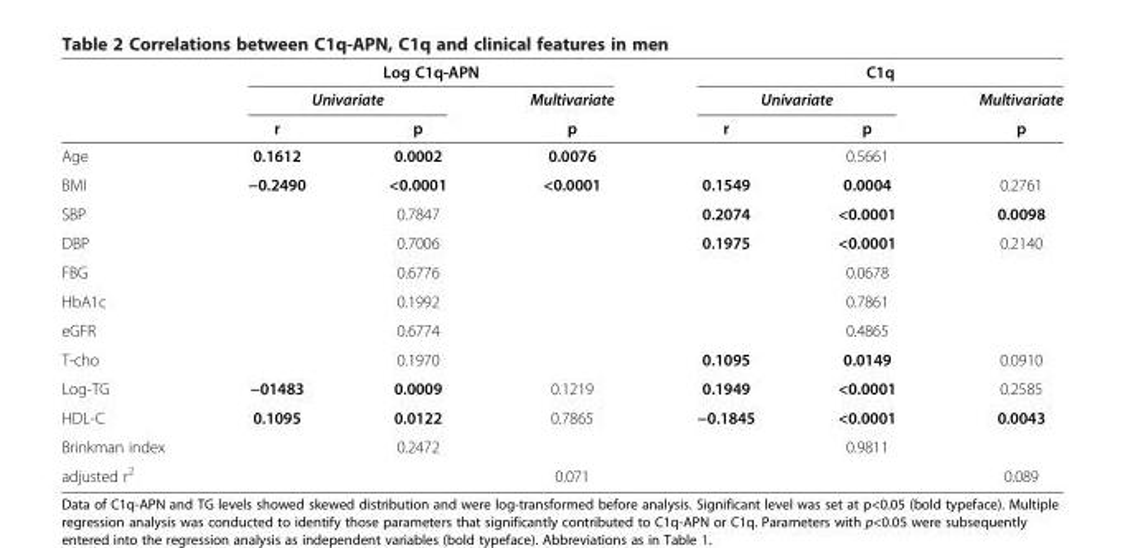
<table><thead><tr><td rowspan="3"></td><td colspan="3">Log C1q-APN</td><td colspan="3">C1q</td></tr><tr><td colspan="2">Univariate</td><td rowspan="2">Multivariate p</td><td colspan="2">Univariate</td><td rowspan="2">Multivariate p</td></tr><tr><td>r</td><td>p</td><td>r</td><td>p</td></tr></thead><tbody><tr><td>Age</td><td>0.1612</td><td>0.0002</td><td>0.0076</td><td></td><td>0.5661</td><td></td></tr><tr><td>BMI</td><td>−0.2490</td><td>&lt;0.0001</td><td>&lt;0.0001</td><td>0.1549</td><td>0.0004</td><td>0.2761</td></tr><tr><td>SBP</td><td></td><td>0.7847</td><td></td><td>0.2074</td><td>&lt;0.0001</td><td>0.0098</td></tr><tr><td>DBP</td><td></td><td>0.7006</td><td></td><td>0.1975</td><td>&lt;0.0001</td><td>0.2140</td></tr><tr><td>FBG</td><td></td><td>0.6776</td><td></td><td></td><td>0.0678</td><td></td></tr><tr><td>HbA1c</td><td></td><td>0.1992</td><td></td><td></td><td>0.7861</td><td></td></tr><tr><td>eGFR</td><td></td><td>0.6774</td><td></td><td></td><td>0.4865</td><td></td></tr><tr><td>T-cho</td><td></td><td>0.1970</td><td></td><td>0.1095</td><td>0.0149</td><td>0.0910</td></tr><tr><td>Log-TG</td><td>−01483</td><td>0.0009</td><td>0.1219</td><td>0.1949</td><td>&lt;0.0001</td><td>0.2585</td></tr><tr><td>HDL-C</td><td>0.1095</td><td>0.0122</td><td>0.7865</td><td>−0.1845</td><td>&lt;0.0001</td><td>0.0043</td></tr><tr><td>Brinkman index</td><td></td><td>0.2472</td><td></td><td></td><td>0.9811</td><td></td></tr><tr><td>adjusted r<sup>2</sup></td><td></td><td></td><td>0.071</td><td></td><td></td><td>0.089</td></tr></tbody></table>